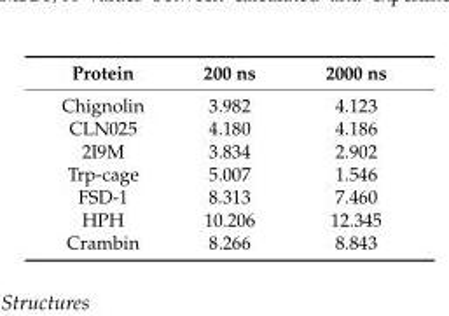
<table><thead><tr><td>Protein</td><td>200 ns</td><td>2000 ns</td></tr></thead><tbody><tr><td>Chignolin</td><td>3.982</td><td>4.123</td></tr><tr><td>CLN025</td><td>4.180</td><td>4.186</td></tr><tr><td>2I9M</td><td>3.834</td><td>2.902</td></tr><tr><td>Trp-cage</td><td>5.007</td><td>1.546</td></tr><tr><td>FSD-1</td><td>8.313</td><td>7.460</td></tr><tr><td>HPH</td><td>10.206</td><td>12.345</td></tr><tr><td>Crambin</td><td>8.266</td><td>8.843</td></tr></tbody></table>